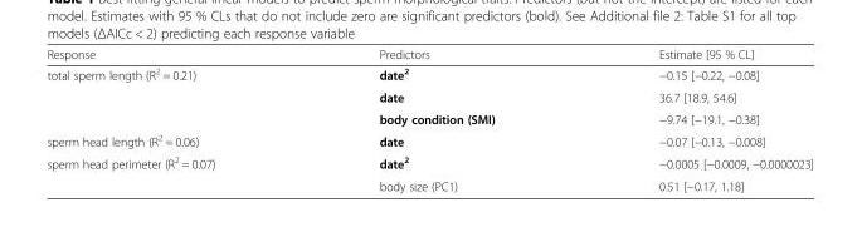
<table><thead><tr><td>Response</td><td>Predictors</td><td>Estimate [95 % CL]</td></tr></thead><tbody><tr><td rowspan="3">total sperm length (R<sup>2</sup> = 0.21)</td><td>date<sup>2</sup></td><td>−0.15 [−0.22, −0.08]</td></tr><tr><td>date</td><td>36.7 [18.9, 54.6]</td></tr><tr><td>body condition (SMI)</td><td>−9.74 [−19.1, −0.38]</td></tr><tr><td>sperm head length (R<sup>2</sup> = 0.06)</td><td>date</td><td>−0.07 [−0.13, −0.008]</td></tr><tr><td rowspan="2">sperm head perimeter (R<sup>2</sup> = 0.07)</td><td>date<sup>2</sup></td><td>−0.0005 [−0.0009, −0.0000023]</td></tr><tr><td>body size (PC1)</td><td>0.51 [−0.17, 1.18]</td></tr></tbody></table>